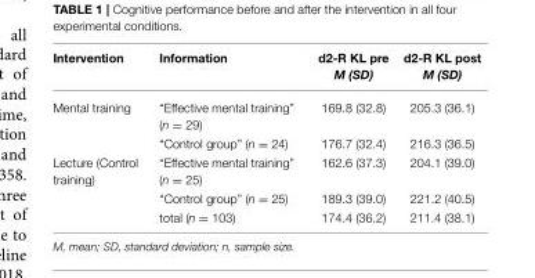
<table><thead><tr><td>Intervention</td><td>Information</td><td>d2-R KL pre M (SD)</td><td>d2-R KL post M (SD)</td></tr></thead><tbody><tr><td rowspan="2">Mental training</td><td>“Effective mental training” (n = 29)</td><td>169.8 (32.8)</td><td>205.3 (36.1)</td></tr><tr><td>“Control group” (n = 24)</td><td>176.7 (32.4)</td><td>216.3 (36.5)</td></tr><tr><td rowspan="3">Lecture (Control training)</td><td>“Effective mental training” (n = 25)</td><td>162.6 (37.3)</td><td>204.1 (39.0)</td></tr><tr><td>“Control group” (n = 25)</td><td>189.3 (39.0)</td><td>221.2 (40.5)</td></tr><tr><td>total (n = 103)</td><td>174.4 (36.2)</td><td>211.4 (38.1)</td></tr></tbody></table>